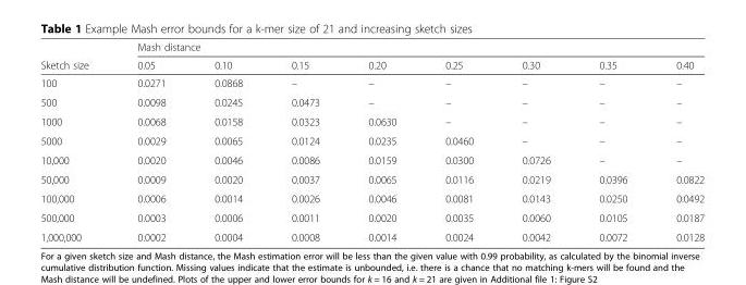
<table><thead><tr><td rowspan="2">Sketch size</td><td colspan="8">Mash distance</td></tr><tr><td>0.05</td><td>0.10</td><td>0.15</td><td>0.20</td><td>0.25</td><td>0.30</td><td>0.35</td><td>0.40</td></tr></thead><tbody><tr><td>100</td><td>0.0271</td><td>0.0868</td><td>–</td><td>–</td><td>–</td><td>–</td><td>–</td><td>–</td></tr><tr><td>500</td><td>0.0098</td><td>0.0245</td><td>0.0473</td><td>–</td><td>–</td><td>–</td><td>–</td><td>–</td></tr><tr><td>1000</td><td>0.0068</td><td>0.0158</td><td>0.0323</td><td>0.0630</td><td>–</td><td>–</td><td>–</td><td>–</td></tr><tr><td>5000</td><td>0.0029</td><td>0.0065</td><td>0.0124</td><td>0.0235</td><td>0.0460</td><td>–</td><td>–</td><td>–</td></tr><tr><td>10,000</td><td>0.0020</td><td>0.0046</td><td>0.0086</td><td>0.0159</td><td>0.0300</td><td>0.0726</td><td>–</td><td>–</td></tr><tr><td>50,000</td><td>0.0009</td><td>0.0020</td><td>0.0037</td><td>0.0065</td><td>0.0116</td><td>0.0219</td><td>0.0396</td><td>0.0822</td></tr><tr><td>100,000</td><td>0.0006</td><td>0.0014</td><td>0.0026</td><td>0.0046</td><td>0.0081</td><td>0.0143</td><td>0.0250</td><td>0.0492</td></tr><tr><td>500,000</td><td>0.0003</td><td>0.0006</td><td>0.0011</td><td>0.0020</td><td>0.0035</td><td>0.0060</td><td>0.0105</td><td>0.0187</td></tr><tr><td>1,000,000</td><td>0.0002</td><td>0.0004</td><td>0.0008</td><td>0.0014</td><td>0.0024</td><td>0.0042</td><td>0.0072</td><td>0.0128</td></tr></tbody></table>